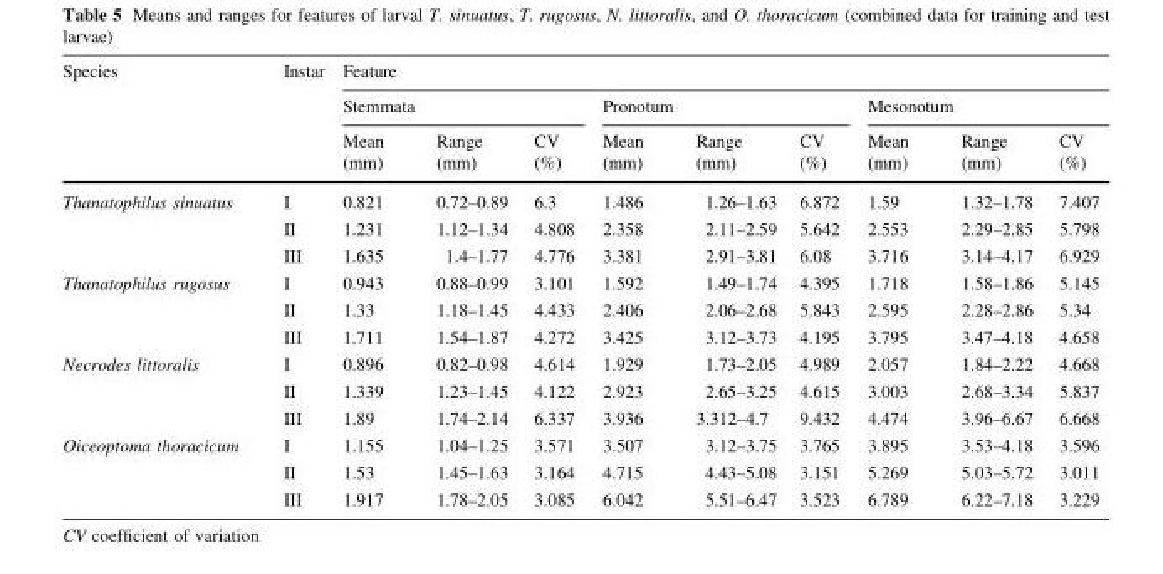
<table><thead><tr><td rowspan="3">Species</td><td rowspan="3">Instar</td><td colspan="9">Feature</td></tr><tr><td colspan="3">Stemmata</td><td colspan="3">Pronotum</td><td colspan="3">Mesonotum</td></tr><tr><td>Mean (mm)</td><td>Range (mm)</td><td>CV (%)</td><td>Mean (mm)</td><td>Range (mm)</td><td>CV (%)</td><td>Mean (mm)</td><td>Range (mm)</td><td>CV (%)</td></tr></thead><tbody><tr><td rowspan="3">Thanatophilus sinuatus</td><td>I</td><td>0.821</td><td>0.72–0.89</td><td>6.3</td><td>1.486</td><td>1.26–1.63</td><td>6.872</td><td>1.59</td><td>1.32–1.78</td><td>7.407</td></tr><tr><td>II</td><td>1.231</td><td>1.12–1.34</td><td>4.808</td><td>2.358</td><td>2.11–2.59</td><td>5.642</td><td>2.553</td><td>2.29–2.85</td><td>5.798</td></tr><tr><td>III</td><td>1.635</td><td>1.4–1.77</td><td>4.776</td><td>3.381</td><td>2.91–3.81</td><td>6.08</td><td>3.716</td><td>3.14–4.17</td><td>6.929</td></tr><tr><td rowspan="3">Thanatophilus rugosus</td><td>I</td><td>0.943</td><td>0.88–0.99</td><td>3.101</td><td>1.592</td><td>1.49–1.74</td><td>4.395</td><td>1.718</td><td>1.58–1.86</td><td>5.145</td></tr><tr><td>II</td><td>1.33</td><td>1.18–1.45</td><td>4.433</td><td>2.406</td><td>2.06–2.68</td><td>5.843</td><td>2.595</td><td>2.28–2.86</td><td>5.34</td></tr><tr><td>III</td><td>1.711</td><td>1.54–1.87</td><td>4.272</td><td>3.425</td><td>3.12–3.73</td><td>4.195</td><td>3.795</td><td>3.47–4.18</td><td>4.658</td></tr><tr><td rowspan="3">Necrodes littoralis</td><td>I</td><td>0.896</td><td>0.82–0.98</td><td>4.614</td><td>1.929</td><td>1.73–2.05</td><td>4.989</td><td>2.057</td><td>1.84–2.22</td><td>4.668</td></tr><tr><td>II</td><td>1.339</td><td>1.23–1.45</td><td>4.122</td><td>2.923</td><td>2.65–3.25</td><td>4.615</td><td>3.003</td><td>2.68–3.34</td><td>5.837</td></tr><tr><td>III</td><td>1.89</td><td>1.74–2.14</td><td>6.337</td><td>3.936</td><td>3.312–4.7</td><td>9.432</td><td>4.474</td><td>3.96–6.67</td><td>6.668</td></tr><tr><td rowspan="3">Oiceoptoma thoracicum</td><td>I</td><td>1.155</td><td>1.04–1.25</td><td>3.571</td><td>3.507</td><td>3.12–3.75</td><td>3.765</td><td>3.895</td><td>3.53–4.18</td><td>3.596</td></tr><tr><td>II</td><td>1.53</td><td>1.45–1.63</td><td>3.164</td><td>4.715</td><td>4.43–5.08</td><td>3.151</td><td>5.269</td><td>5.03–5.72</td><td>3.011</td></tr><tr><td>III</td><td>1.917</td><td>1.78–2.05</td><td>3.085</td><td>6.042</td><td>5.51–6.47</td><td>3.523</td><td>6.789</td><td>6.22–7.18</td><td>3.229</td></tr></tbody></table>